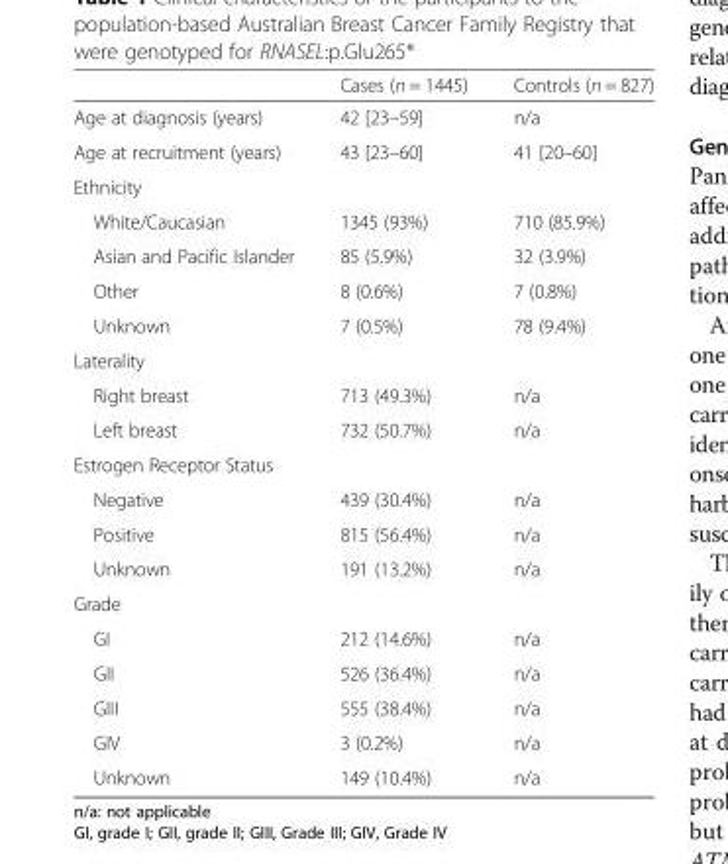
<table><thead><tr><td></td><td>Cases (n = 1445)</td><td>Controls (n = 827)</td></tr></thead><tbody><tr><td>Age at diagnosis (years)</td><td>42 [23–59]</td><td>n/a</td></tr><tr><td>Age at recruitment (years)</td><td>43 [23–60]</td><td>41 [20–60]</td></tr><tr><td colspan="3">Ethnicity</td></tr><tr><td>White/Caucasian</td><td>1345 (93%)</td><td>710 (85.9%)</td></tr><tr><td>Asian and Pacific Islander</td><td>85 (5.9%)</td><td>32 (3.9%)</td></tr><tr><td>Other</td><td>8 (0.6%)</td><td>7 (0.8%)</td></tr><tr><td>Unknown</td><td>7 (0.5%)</td><td>78 (9.4%)</td></tr><tr><td colspan="3">Laterality</td></tr><tr><td>Right breast</td><td>713 (49.3%)</td><td>n/a</td></tr><tr><td>Left breast</td><td>732 (50.7%)</td><td>n/a</td></tr><tr><td colspan="3">Estrogen Receptor Status</td></tr><tr><td>Negative</td><td>439 (30.4%)</td><td>n/a</td></tr><tr><td>Positive</td><td>815 (56.4%)</td><td>n/a</td></tr><tr><td>Unknown</td><td>191 (13.2%)</td><td>n/a</td></tr><tr><td colspan="3">Grade</td></tr><tr><td>GI</td><td>212 (14.6%)</td><td>n/a</td></tr><tr><td>GII</td><td>526 (36.4%)</td><td>n/a</td></tr><tr><td>GIII</td><td>555 (38.4%)</td><td>n/a</td></tr><tr><td>GIV</td><td>3 (0.2%)</td><td>n/a</td></tr><tr><td>Unknown</td><td>149 (10.4%)</td><td>n/a</td></tr></tbody></table>